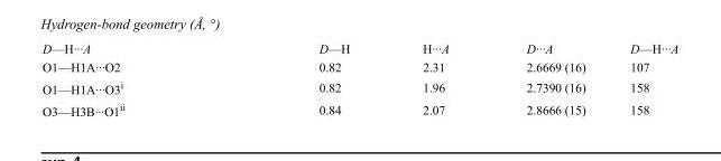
<table><tbody><tr><td>D—H···A</td><td>D—H</td><td>H···A</td><td>D···A</td><td>D—H···A</td></tr><tr><td>O1—H1A···O2</td><td>0.82</td><td>2.31</td><td>2.6669 (16)</td><td>107</td></tr><tr><td>O1—H1A···O3<sup>i</sup></td><td>0.82</td><td>1.96</td><td>2.7390 (16)</td><td>158</td></tr><tr><td>O3—H3B···O1<sup>ii</sup></td><td>0.84</td><td>2.07</td><td>2.8666 (15)</td><td>158</td></tr></tbody></table>